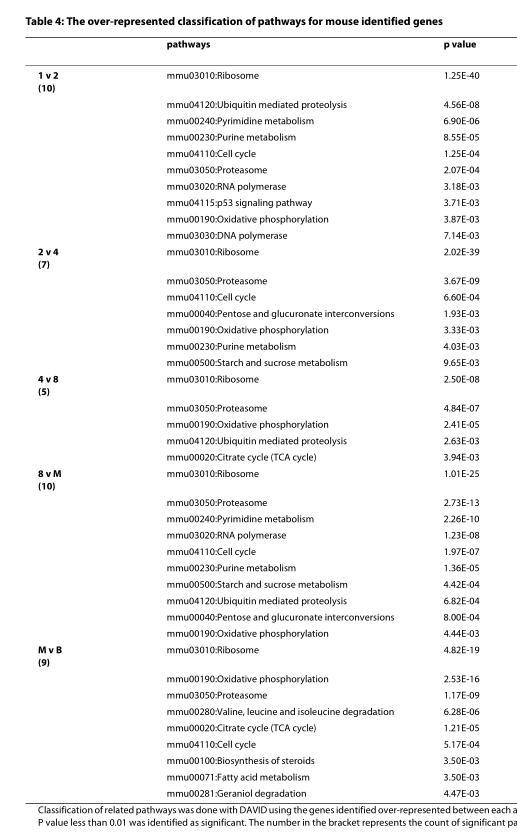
<table><thead><tr><td></td><td>pathways</td><td>p value</td></tr></thead><tbody><tr><td rowspan="10">1 v 2 (10)</td><td>mmu03010:Ribosome</td><td>1.25E-40</td></tr><tr><td>mmu04120:Ubiquitin mediated proteolysis</td><td>4.56E-08</td></tr><tr><td>mmu00240:Pyrimidine metabolism</td><td>6.90E-06</td></tr><tr><td>mmu00230:Purine metabolism</td><td>8.55E-05</td></tr><tr><td>mmu04110:Cell cycle</td><td>1.25E-04</td></tr><tr><td>mmu03050:Proteasome</td><td>2.07E-04</td></tr><tr><td>mmu03020:RNA polymerase</td><td>3.18E-03</td></tr><tr><td>mmu04115:p53 signaling pathway</td><td>3.71E-03</td></tr><tr><td>mmu00190:Oxidative phosphorylation</td><td>3.87E-03</td></tr><tr><td>mmu03030:DNA polymerase</td><td>7.14E-03</td></tr><tr><td rowspan="7">2 v 4 (7)</td><td>mmu03010:Ribosome</td><td>2.02E-39</td></tr><tr><td>mmu03050:Proteasome</td><td>3.67E-09</td></tr><tr><td>mmu04110:Cell cycle</td><td>6.60E-04</td></tr><tr><td>mmu00040:Pentose and glucuronate interconversions</td><td>1.93E-03</td></tr><tr><td>mmu00190:Oxidative phosphorylation</td><td>3.33E-03</td></tr><tr><td>mmu00230:Purine metabolism</td><td>4.03E-03</td></tr><tr><td>mmu00500:Starch and sucrose metabolism</td><td>9.65E-03</td></tr><tr><td rowspan="5">4 v 8 (5)</td><td>mmu03010:Ribosome</td><td>2.50E-08</td></tr><tr><td>mmu03050:Proteasome</td><td>4.84E-07</td></tr><tr><td>mmu00190:Oxidative phosphorylation</td><td>2.41E-05</td></tr><tr><td>mmu04120:Ubiquitin mediated proteolysis</td><td>2.63E-03</td></tr><tr><td>mmu00020:Citrate cycle (TCA cycle)</td><td>3.94E-03</td></tr><tr><td rowspan="10">8 v M (10)</td><td>mmu03010:Ribosome</td><td>1.01E-25</td></tr><tr><td>mmu03050:Proteasome</td><td>2.73E-13</td></tr><tr><td>mmu00240:Pyrimidine metabolism</td><td>2.26E-10</td></tr><tr><td>mmu03020:RNA polymerase</td><td>1.23E-08</td></tr><tr><td>mmu04110:Cell cycle</td><td>1.97E-07</td></tr><tr><td>mmu00230:Purine metabolism</td><td>1.36E-05</td></tr><tr><td>mmu00500:Starch and sucrose metabolism</td><td>4.42E-04</td></tr><tr><td>mmu04120:Ubiquitin mediated proteolysis</td><td>6.82E-04</td></tr><tr><td>mmu00040:Pentose and glucuronate interconversions</td><td>8.00E-04</td></tr><tr><td>mmu00190:Oxidative phosphorylation</td><td>4.44E-03</td></tr><tr><td rowspan="9">M v B (9)</td><td>mmu03010:Ribosome</td><td>4.82E-19</td></tr><tr><td>mmu00190:Oxidative phosphorylation</td><td>2.53E-16</td></tr><tr><td>mmu03050:Proteasome</td><td>1.17E-09</td></tr><tr><td>mmu00280:Valine, leucine and isoleucine degradation</td><td>6.28E-06</td></tr><tr><td>mmu00020:Citrate cycle (TCA cycle)</td><td>1.21E-05</td></tr><tr><td>mmu04110:Cell cycle</td><td>5.17E-04</td></tr><tr><td>mmu00100:Biosynthesis of steroids</td><td>3.50E-03</td></tr><tr><td>mmu00071:Fatty acid metabolism</td><td>3.50E-03</td></tr><tr><td>mmu00281:Geraniol degradation</td><td>4.47E-03</td></tr></tbody></table>